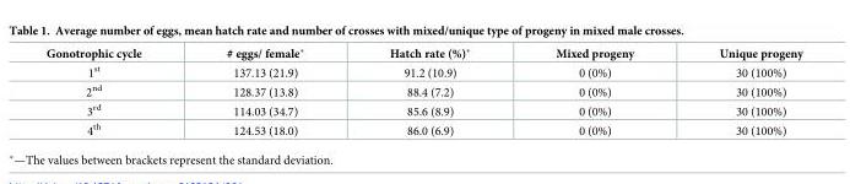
<table><thead><tr><td>Gonotrophic cycle</td><td># eggs/ female*</td><td>Hatch rate (%)*</td><td>Mixed progeny</td><td>Unique progeny</td></tr></thead><tbody><tr><td>1<sup>st</sup></td><td>137.13 (21.9)</td><td>91.2 (10.9)</td><td>0 (0%)</td><td>30 (100%)</td></tr><tr><td>2<sup>nd</sup></td><td>128.37 (13.8)</td><td>88.4 (7.2)</td><td>0 (0%)</td><td>30 (100%)</td></tr><tr><td>3<sup>rd</sup></td><td>114.03 (34.7)</td><td>85.6 (8.9)</td><td>0 (0%)</td><td>30 (100%)</td></tr><tr><td>4<sup>th</sup></td><td>124.53 (18.0)</td><td>86.0 (6.9)</td><td>0 (0%)</td><td>30 (100%)</td></tr></tbody></table>